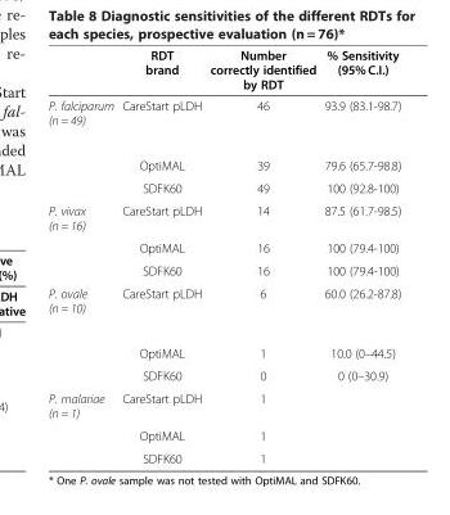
<table><thead><tr><td></td><td>RDT brand</td><td>Number correctly identified by RDT</td><td>% Sensitivity (95% C.I.)</td></tr></thead><tbody><tr><td rowspan="3">P. falciparum (n = 49)</td><td>CareStart pLDH</td><td>46</td><td>93.9 (83.1-98.7)</td></tr><tr><td>OptiMAL</td><td>39</td><td>79.6 (65.7-98.8)</td></tr><tr><td>SDFK60</td><td>49</td><td>100 (92.8-100)</td></tr><tr><td rowspan="3">P. vivax (n = 16)</td><td>CareStart pLDH</td><td>14</td><td>87.5 (61.7-98.5)</td></tr><tr><td>OptiMAL</td><td>16</td><td>100 (79.4-100)</td></tr><tr><td>SDFK60</td><td>16</td><td>100 (79.4-100)</td></tr><tr><td rowspan="3">P. ovale (n = 10)</td><td>CareStart pLDH</td><td>6</td><td>60.0 (26.2-87.8)</td></tr><tr><td>OptiMAL</td><td>1</td><td>10.0 (0–44.5)</td></tr><tr><td>SDFK60</td><td>0</td><td>0 (0–30.9)</td></tr><tr><td rowspan="3">P. malariae (n = 1)</td><td>CareStart pLDH</td><td>1</td><td></td></tr><tr><td>OptiMAL</td><td>1</td><td></td></tr><tr><td>SDFK60</td><td>1</td><td></td></tr></tbody></table>